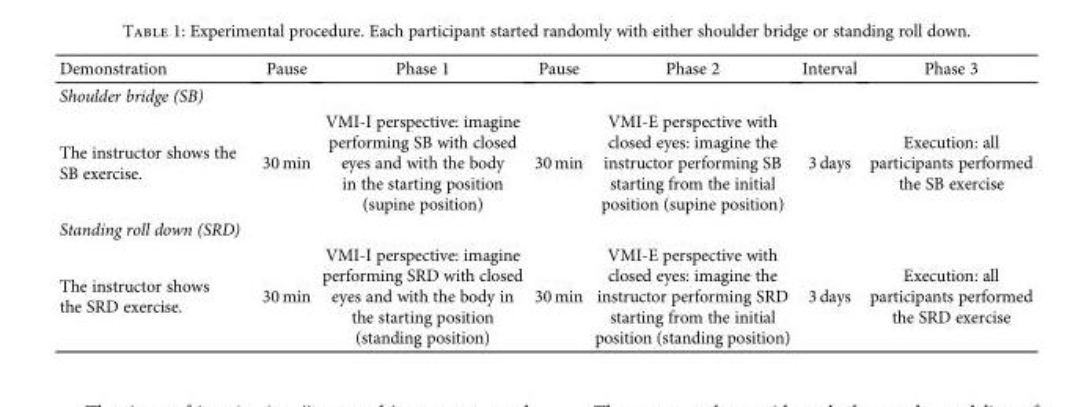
<table><thead><tr><td>Demonstration</td><td>Pause</td><td>Phase 1</td><td>Pause</td><td>Phase 2</td><td>Interval</td><td>Phase 3</td></tr></thead><tbody><tr><td colspan="7">Shoulder bridge (SB)</td></tr><tr><td>The instructor shows the SB exercise.</td><td>30 min</td><td>VMI-I perspective: imagine performing SB with closed eyes and with the body in the starting position (supine position)</td><td>30 min</td><td>VMI-E perspective with closed eyes: imagine the instructor performing SB starting from the initial position (supine position)</td><td>3 days</td><td>Execution: all participants performed the SB exercise</td></tr><tr><td colspan="7">Standing roll down (SRD)</td></tr><tr><td>The instructor shows the SRD exercise.</td><td>30 min</td><td>VMI-I perspective: imagine performing SRD with closed eyes and with the body in the starting position (standing position)</td><td>30 min</td><td>VMI-E perspective with closed eyes: imagine the instructor performing SRD starting from the initial position (standing position)</td><td>3 days</td><td>Execution: all participants performed the SRD exercise</td></tr></tbody></table>